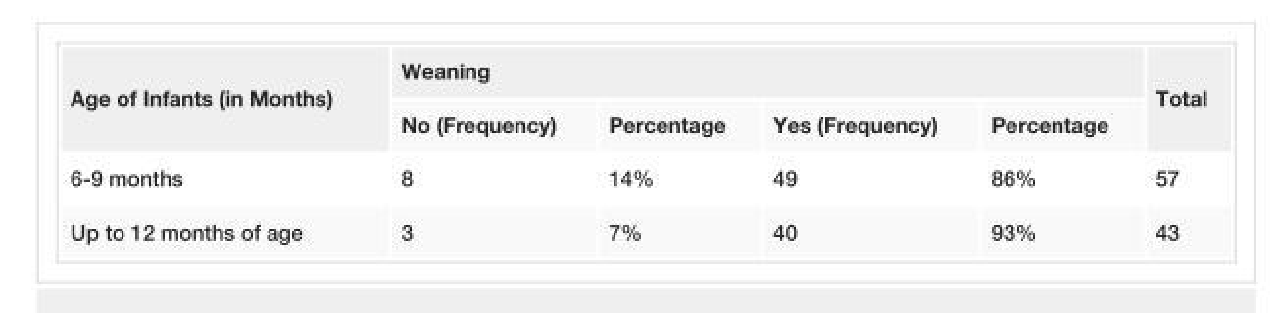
<table><tbody><tr><td rowspan="2">Age of Infants (in Months)</td><td colspan="4">Weaning</td><td rowspan="2">Total</td></tr><tr><td>No (Frequency)</td><td>Percentage</td><td>Yes (Frequency)</td><td>Percentage</td></tr><tr><td>6-9 months</td><td>8</td><td>14%</td><td>49</td><td>86%</td><td>57</td></tr><tr><td>Up to 12 months of age</td><td>3</td><td>7%</td><td>40</td><td>93%</td><td>43</td></tr></tbody></table>